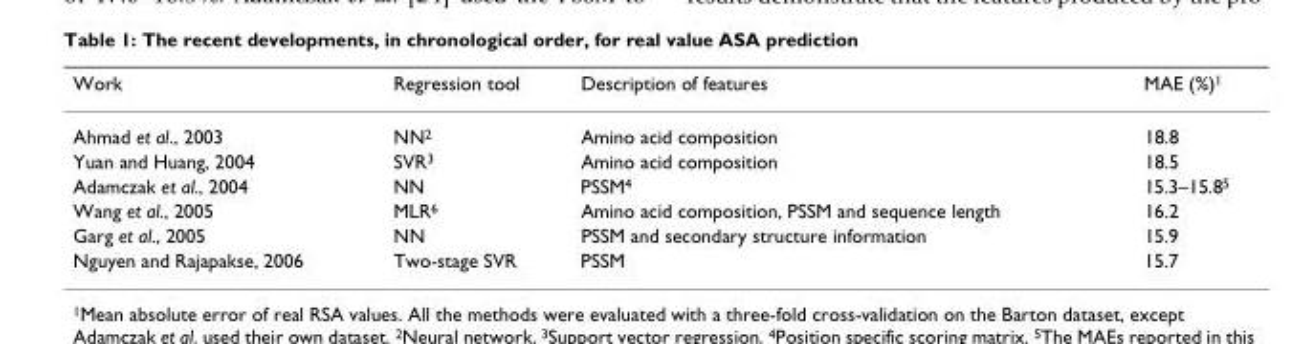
<table><thead><tr><td>Work</td><td>Regression tool</td><td>Description of features</td><td>MAE (%)<sup>1</sup></td></tr></thead><tbody><tr><td>Ahmad et al., 2003</td><td>NN<sup>2</sup></td><td>Amino acid composition</td><td>18.8</td></tr><tr><td>Yuan and Huang, 2004</td><td>SVR<sup>3</sup></td><td>Amino acid composition</td><td>18.5</td></tr><tr><td>Adamczak et al., 2004</td><td>NN</td><td>PSSM<sup>4</sup></td><td>15.3–15.8<sup>5</sup></td></tr><tr><td>Wang et al., 2005</td><td>MLR<sup>6</sup></td><td>Amino acid composition, PSSM and sequence length</td><td>16.2</td></tr><tr><td>Garg et al., 2005</td><td>NN</td><td>PSSM and secondary structure information</td><td>15.9</td></tr><tr><td>Nguyen and Rajapakse, 2006</td><td>Two-stage SVR</td><td>PSSM</td><td>15.7</td></tr></tbody></table>